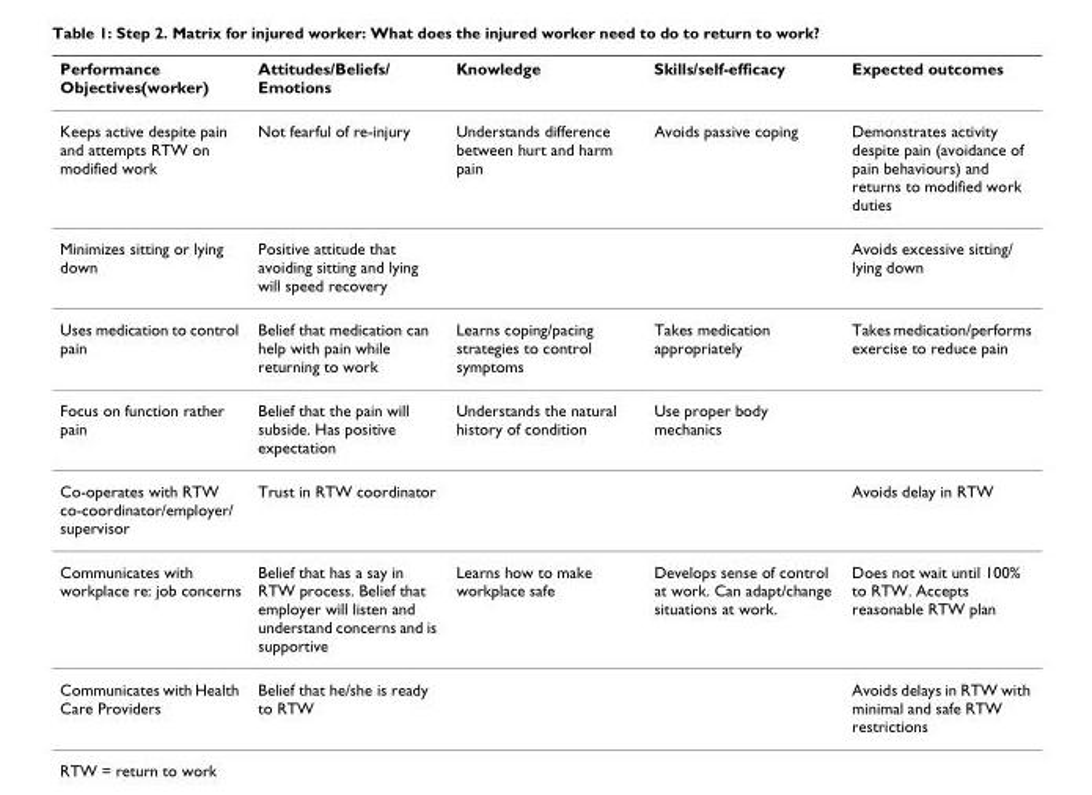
<table><thead><tr><td>Performance Objectives(worker)</td><td>Attitudes/Beliefs/ Emotions</td><td>Knowledge</td><td>Skills/self-efficacy</td><td>Expected outcomes</td></tr></thead><tbody><tr><td>Keeps active despite pain and attempts RTW on modified work</td><td>Not fearful of re-injury</td><td>Understands difference between hurt and harm pain</td><td>Avoids passive coping</td><td>Demonstrates activity despite pain (avoidance of pain behaviours) and returns to modified work duties</td></tr><tr><td>Minimizes sitting or lying down</td><td>Positive attitude that avoiding sitting and lying will speed recovery</td><td></td><td></td><td>Avoids excessive sitting/ lying down</td></tr><tr><td>Uses medication to control pain</td><td>Belief that medication can help with pain while returning to work</td><td>Learns coping/pacing strategies to control symptoms</td><td>Takes medication appropriately</td><td>Takes medication/performs exercise to reduce pain</td></tr><tr><td>Focus on function rather pain</td><td>Belief that the pain will subside. Has positive expectation</td><td>Understands the natural history of condition</td><td>Use proper body mechanics</td><td></td></tr><tr><td>Co-operates with RTW co-coordinator/employer/ supervisor</td><td>Trust in RTW coordinator</td><td></td><td></td><td>Avoids delay in RTW</td></tr><tr><td>Communicates with workplace re: job concerns</td><td>Belief that has a say in RTW process. Belief that employer will listen and understand concerns and is supportive</td><td>Learns how to make workplace safe</td><td>Develops sense of control at work. Can adapt/change situations at work.</td><td>Does not wait until 100% to RTW. Accepts reasonable RTW plan</td></tr><tr><td>Communicates with Health Care Providers</td><td>Belief that he/she is ready to RTW</td><td></td><td></td><td>Avoids delays in RTW with minimal and safe RTW restrictions</td></tr></tbody></table>